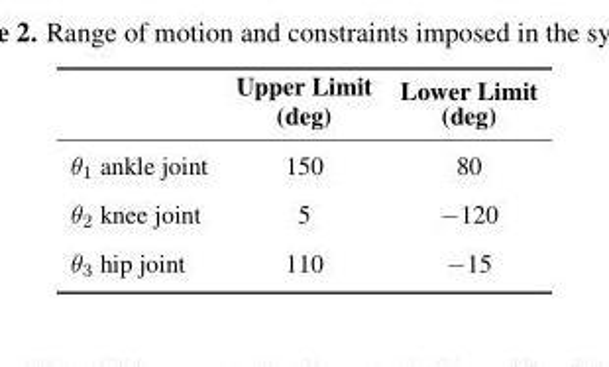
<table><thead><tr><td></td><td>Upper Limit (deg)</td><td>Lower Limit (deg)</td></tr></thead><tbody><tr><td>θ<sub>1</sub> ankle joint</td><td>150</td><td>80</td></tr><tr><td>θ<sub>2</sub> knee joint</td><td>5</td><td>−120</td></tr><tr><td>θ<sub>3</sub> hip joint</td><td>110</td><td>−15</td></tr></tbody></table>